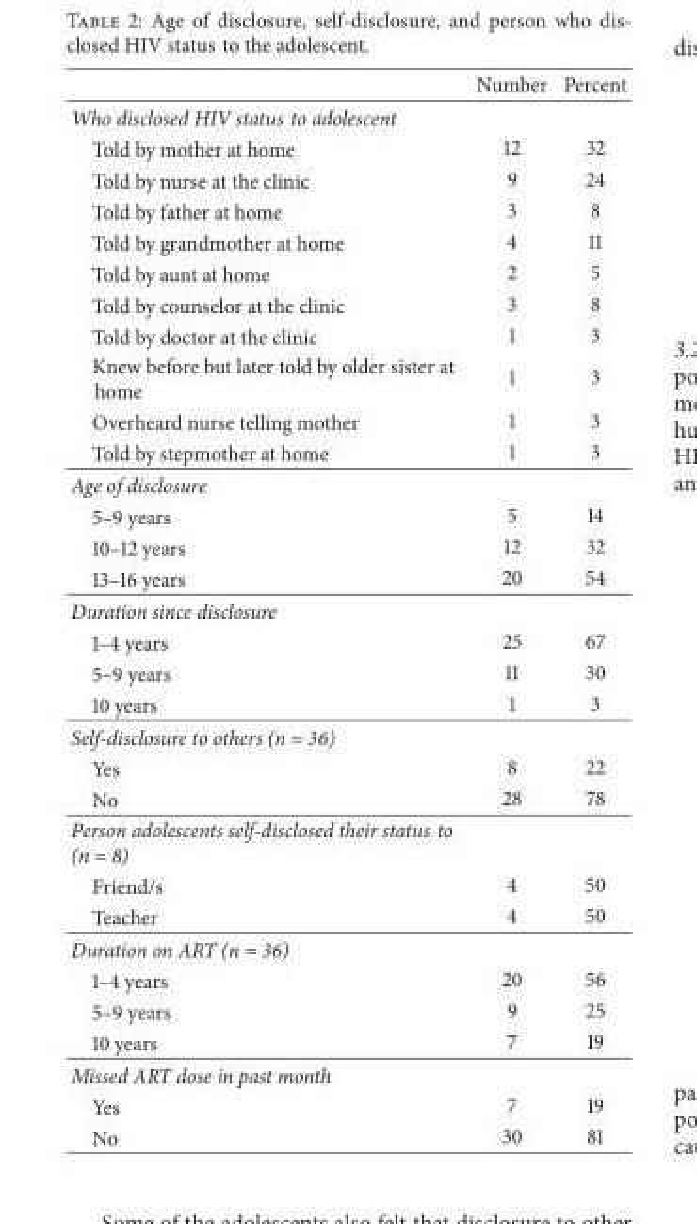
<table><thead><tr><td></td><td>Number</td><td>Percent</td></tr></thead><tbody><tr><td colspan="3">Who disclosed HIV status to adolescent</td></tr><tr><td>Told by mother at home</td><td>12</td><td>32</td></tr><tr><td>Told by nurse at the clinic</td><td>9</td><td>24</td></tr><tr><td>Told by father at home</td><td>3</td><td>8</td></tr><tr><td>Told by grandmother at home</td><td>4</td><td>11</td></tr><tr><td>Told by aunt at home</td><td>2</td><td>5</td></tr><tr><td>Told by counselor at the clinic</td><td>3</td><td>8</td></tr><tr><td>Told by doctor at the clinic</td><td>1</td><td>3</td></tr><tr><td>Knew before but later told by older sister at home</td><td>1</td><td>3</td></tr><tr><td>Overheard nurse telling mother</td><td>1</td><td>3</td></tr><tr><td>Told by stepmother at home</td><td>1</td><td>3</td></tr><tr><td colspan="3">Age of disclosure</td></tr><tr><td>5–9 years</td><td>5</td><td>14</td></tr><tr><td>10–12 years</td><td>12</td><td>32</td></tr><tr><td>13–16 years</td><td>20</td><td>54</td></tr><tr><td colspan="3">Duration since disclosure</td></tr><tr><td>1–4 years</td><td>25</td><td>67</td></tr><tr><td>5–9 years</td><td>11</td><td>30</td></tr><tr><td>10 years</td><td>1</td><td>3</td></tr><tr><td colspan="3">Self-disclosure to others (n = 36)</td></tr><tr><td>Yes</td><td>8</td><td>22</td></tr><tr><td>No</td><td>28</td><td>78</td></tr><tr><td colspan="3">Person adolescents self-disclosed their status to (n = 8)</td></tr><tr><td>Friend/s</td><td>4</td><td>50</td></tr><tr><td>Teacher</td><td>4</td><td>50</td></tr><tr><td colspan="3">Duration on ART (n = 36)</td></tr><tr><td>1–4 years</td><td>20</td><td>56</td></tr><tr><td>5–9 years</td><td>9</td><td>25</td></tr><tr><td>10 years</td><td>7</td><td>19</td></tr><tr><td colspan="3">Missed ART dose in past month</td></tr><tr><td>Yes</td><td>7</td><td>19</td></tr><tr><td>No</td><td>30</td><td>81</td></tr></tbody></table>